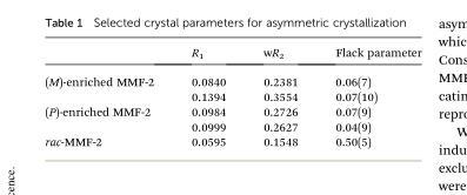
<table><thead><tr><td></td><td>R<sub>1</sub></td><td>wR<sub>2</sub></td><td>Flack parameter</td></tr></thead><tbody><tr><td rowspan="2">(M)-enriched MMF-2</td><td>0.0840</td><td>0.2381</td><td>0.06(7)</td></tr><tr><td>0.1394</td><td>0.3554</td><td>0.07(10)</td></tr><tr><td rowspan="2">(P)-enriched MMF-2</td><td>0.0984</td><td>0.2726</td><td>0.07(9)</td></tr><tr><td>0.0999</td><td>0.2627</td><td>0.04(9)</td></tr><tr><td>rac-MMF-2</td><td>0.0595</td><td>0.1548</td><td>0.50(5)</td></tr></tbody></table>